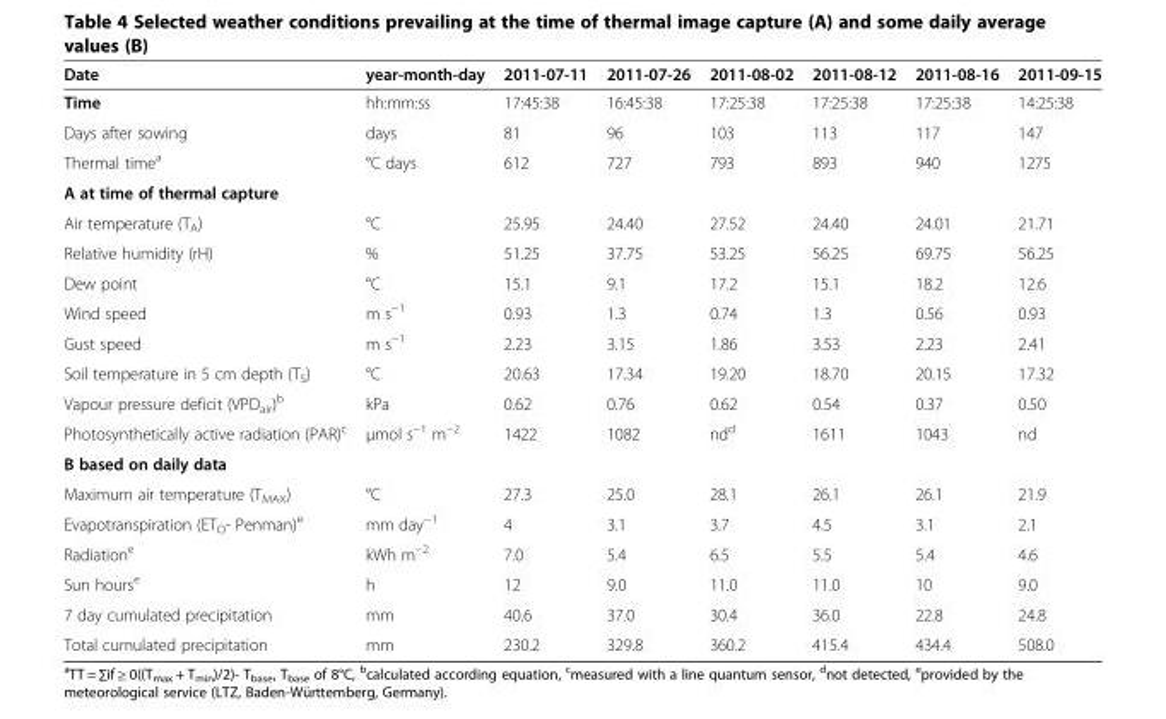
<table><thead><tr><td>Date</td><td>year-month-day</td><td>2011-07-11</td><td>2011-07-26</td><td>2011-08-02</td><td>2011-08-12</td><td>2011-08-16</td><td>2011-09-15</td></tr></thead><tbody><tr><td>Time</td><td>hh:mm:ss</td><td>17:45:38</td><td>16:45:38</td><td>17:25:38</td><td>17:25:38</td><td>17:25:38</td><td>14:25:38</td></tr><tr><td>Days after sowing</td><td>days</td><td>81</td><td>96</td><td>103</td><td>113</td><td>117</td><td>147</td></tr><tr><td>Thermal time<sup>a</sup></td><td>°C days</td><td>612</td><td>727</td><td>793</td><td>893</td><td>940</td><td>1275</td></tr><tr><td colspan="8">A at time of thermal capture</td></tr><tr><td>Air temperature (T<sub>A</sub>)</td><td>°C</td><td>25.95</td><td>24.40</td><td>27.52</td><td>24.40</td><td>24.01</td><td>21.71</td></tr><tr><td>Relative humidity (rH)</td><td>%</td><td>51.25</td><td>37.75</td><td>53.25</td><td>56.25</td><td>69.75</td><td>56.25</td></tr><tr><td>Dew point</td><td>°C</td><td>15.1</td><td>9.1</td><td>17.2</td><td>15.1</td><td>18.2</td><td>12.6</td></tr><tr><td>Wind speed</td><td>m s<sup>−1</sup></td><td>0.93</td><td>1.3</td><td>0.74</td><td>1.3</td><td>0.56</td><td>0.93</td></tr><tr><td>Gust speed</td><td>m s<sup>−1</sup></td><td>2.23</td><td>3.15</td><td>1.86</td><td>3.53</td><td>2.23</td><td>2.41</td></tr><tr><td>Soil temperature in 5 cm depth (T<sub>S</sub>)</td><td>°C</td><td>20.63</td><td>17.34</td><td>19.20</td><td>18.70</td><td>20.15</td><td>17.32</td></tr><tr><td>Vapour pressure deficit (VPD<sub>air</sub>)<sup>b</sup></td><td>kPa</td><td>0.62</td><td>0.76</td><td>0.62</td><td>0.54</td><td>0.37</td><td>0.50</td></tr><tr><td>Photosynthetically active radiation (PAR)<sup>c</sup></td><td>μmol s<sup>−1</sup> m<sup>−2</sup></td><td>1422</td><td>1082</td><td>nd<sup>d</sup></td><td>1611</td><td>1043</td><td>nd</td></tr><tr><td colspan="8">B based on daily data</td></tr><tr><td>Maximum air temperature (T<sub>MAX</sub>)</td><td>°C</td><td>27.3</td><td>25.0</td><td>28.1</td><td>26.1</td><td>26.1</td><td>21.9</td></tr><tr><td>Evapotranspiration (ET<sub>O</sub>- Penman)<sup>e</sup></td><td>mm day<sup>−1</sup></td><td>4</td><td>3.1</td><td>3.7</td><td>4.5</td><td>3.1</td><td>2.1</td></tr><tr><td>Radiation<sup>e</sup></td><td>kWh m<sup>−2</sup></td><td>7.0</td><td>5.4</td><td>6.5</td><td>5.5</td><td>5.4</td><td>4.6</td></tr><tr><td>Sun hours<sup>e</sup></td><td>h</td><td>12</td><td>9.0</td><td>11.0</td><td>11.0</td><td>10</td><td>9.0</td></tr><tr><td>7 day cumulated precipitation</td><td>mm</td><td>40.6</td><td>37.0</td><td>30.4</td><td>36.0</td><td>22.8</td><td>24.8</td></tr><tr><td>Total cumulated precipitation</td><td>mm</td><td>230.2</td><td>329.8</td><td>360.2</td><td>415.4</td><td>434.4</td><td>508.0</td></tr></tbody></table>